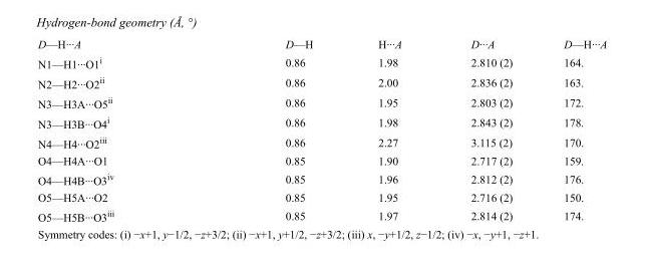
<table><tbody><tr><td>D—H···A</td><td>D—H</td><td>H···A</td><td>D···A</td><td>D—H···A</td></tr><tr><td>N1—H1···O1<sup>i</sup></td><td>0.86</td><td>1.98</td><td>2.810 (2)</td><td>164.</td></tr><tr><td>N2—H2···O2<sup>ii</sup></td><td>0.86</td><td>2.00</td><td>2.836 (2)</td><td>163.</td></tr><tr><td>N3—H3A···O5<sup>ii</sup></td><td>0.86</td><td>1.95</td><td>2.803 (2)</td><td>172.</td></tr><tr><td>N3—H3B···O4<sup>i</sup></td><td>0.86</td><td>1.98</td><td>2.843 (2)</td><td>178.</td></tr><tr><td>N4—H4···O2<sup>iii</sup></td><td>0.86</td><td>2.27</td><td>3.115 (2)</td><td>170.</td></tr><tr><td>O4—H4A···O1</td><td>0.85</td><td>1.90</td><td>2.717 (2)</td><td>159.</td></tr><tr><td>O4—H4B···O3<sup>iv</sup></td><td>0.85</td><td>1.96</td><td>2.812 (2)</td><td>176.</td></tr><tr><td>O5—H5A···O2</td><td>0.85</td><td>1.95</td><td>2.716 (2)</td><td>150.</td></tr><tr><td>O5—H5B···O3<sup>iii</sup></td><td>0.85</td><td>1.97</td><td>2.814 (2)</td><td>174.</td></tr></tbody></table>